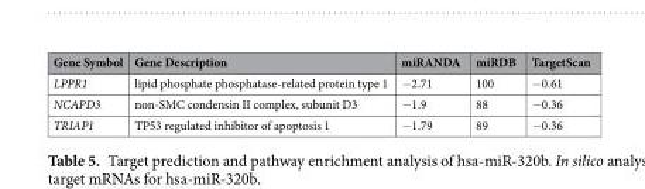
<table><thead><tr><td>Gene Symbol</td><td>Gene Description</td><td>miRANDA</td><td>miRDB</td><td>TargetScan</td></tr></thead><tbody><tr><td>LPPR1</td><td>lipid phosphate phosphatase-related protein type 1</td><td>−2.71</td><td>100</td><td>−0.61</td></tr><tr><td>NCAPD3</td><td>non-SMC condensin II complex, subunit D3</td><td>−1.9</td><td>88</td><td>−0.36</td></tr><tr><td>TRIAP1</td><td>TP53 regulated inhibitor of apoptosis 1</td><td>−1.79</td><td>89</td><td>−0.36</td></tr></tbody></table>